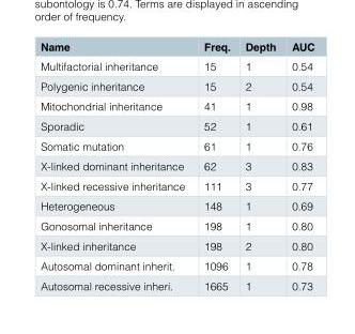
<table><thead><tr><td>Name</td><td>Freq.</td><td>Depth</td><td>AUC</td></tr></thead><tbody><tr><td>Multifactorial inheritance</td><td>15</td><td>1</td><td>0.54</td></tr><tr><td>Polygenic inheritance</td><td>15</td><td>2</td><td>0.54</td></tr><tr><td>Mitochondrial inheritance</td><td>41</td><td>1</td><td>0.98</td></tr><tr><td>Sporadic</td><td>52</td><td>1</td><td>0.61</td></tr><tr><td>Somatic mutation</td><td>61</td><td>1</td><td>0.76</td></tr><tr><td>X-linked dominant inheritance</td><td>62</td><td>3</td><td>0.83</td></tr><tr><td>X-linked recessive inheritance</td><td>111</td><td>3</td><td>0.77</td></tr><tr><td>Heterogeneous</td><td>148</td><td>1</td><td>0.69</td></tr><tr><td>Gonosomal inheritance</td><td>198</td><td>1</td><td>0.80</td></tr><tr><td>X-linked inheritance</td><td>198</td><td>2</td><td>0.80</td></tr><tr><td>Autosomal dominant inherit.</td><td>1096</td><td>1</td><td>0.78</td></tr><tr><td>Autosomal recessive inheri.</td><td>1665</td><td>1</td><td>0.73</td></tr></tbody></table>